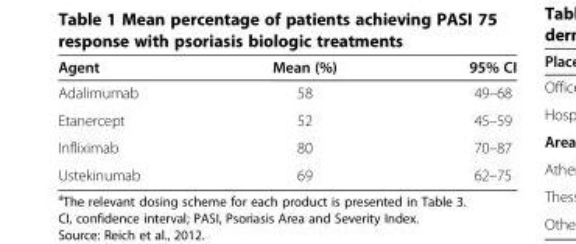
<table><thead><tr><td>Agent</td><td>Mean (%)</td><td>95% CI</td></tr></thead><tbody><tr><td>Adalimumab</td><td>58</td><td>49–68</td></tr><tr><td>Etanercept</td><td>52</td><td>45–59</td></tr><tr><td>Infliximab</td><td>80</td><td>70–87</td></tr><tr><td>Ustekinumab</td><td>69</td><td>62–75</td></tr></tbody></table>